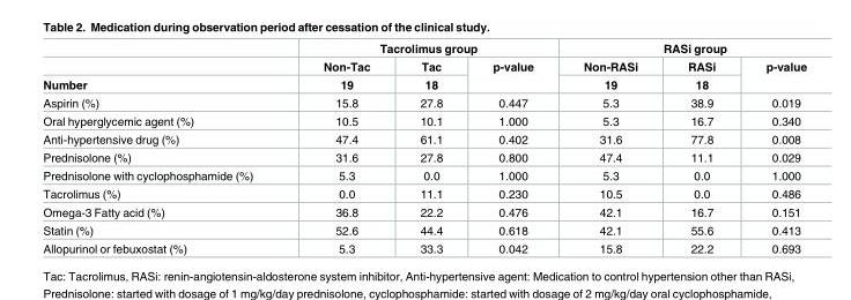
<table><thead><tr><td rowspan="3">Number</td><td colspan="3">Tacrolimus group</td><td colspan="3">RASi group</td></tr><tr><td rowspan="2">Non-Tac 19</td><td rowspan="2">Tac 18</td><td rowspan="2">p-value</td><td rowspan="2">Non-RASi 19</td><td rowspan="2">RASi 18</td><td rowspan="2">p-value</td></tr><tr></tr></thead><tbody><tr><td>Aspirin (%)</td><td>15.8</td><td>27.8</td><td>0.447</td><td>5.3</td><td>38.9</td><td>0.019</td></tr><tr><td>Oral hyperglycemic agent (%)</td><td>10.5</td><td>10.1</td><td>1.000</td><td>5.3</td><td>16.7</td><td>0.340</td></tr><tr><td>Anti-hypertensive drug (%)</td><td>47.4</td><td>61.1</td><td>0.402</td><td>31.6</td><td>77.8</td><td>0.008</td></tr><tr><td>Prednisolone (%)</td><td>31.6</td><td>27.8</td><td>0.800</td><td>47.4</td><td>11.1</td><td>0.029</td></tr><tr><td>Prednisolone with cyclophosphamide (%)</td><td>5.3</td><td>0.0</td><td>1.000</td><td>5.3</td><td>0.0</td><td>1.000</td></tr><tr><td>Tacrolimus (%)</td><td>0.0</td><td>11.1</td><td>0.230</td><td>10.5</td><td>0.0</td><td>0.486</td></tr><tr><td>Omega-3 Fatty acid (%)</td><td>36.8</td><td>22.2</td><td>0.476</td><td>42.1</td><td>16.7</td><td>0.151</td></tr><tr><td>Statin (%)</td><td>52.6</td><td>44.4</td><td>0.618</td><td>42.1</td><td>55.6</td><td>0.413</td></tr><tr><td>Allopurinol or febuxostat (%)</td><td>5.3</td><td>33.3</td><td>0.042</td><td>15.8</td><td>22.2</td><td>0.693</td></tr></tbody></table>